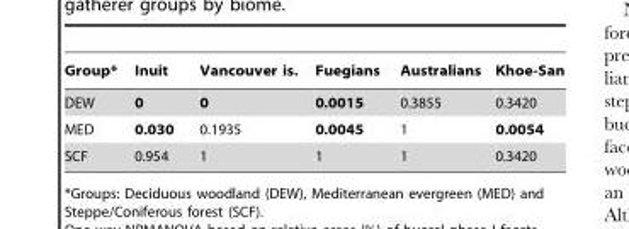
<table><thead><tr><td>Group*</td><td>Inuit</td><td>Vancouver is.</td><td>Fuegians</td><td>Australians</td><td>Khoe-San</td></tr></thead><tbody><tr><td>DEW</td><td>0</td><td>0</td><td>0.0015</td><td>0.3855</td><td>0.3420</td></tr><tr><td>MED</td><td>0.030</td><td>0.1935</td><td>0.0045</td><td>1</td><td>0.0054</td></tr><tr><td>SCF</td><td>0.954</td><td>1</td><td>1</td><td>1</td><td>0.3420</td></tr></tbody></table>